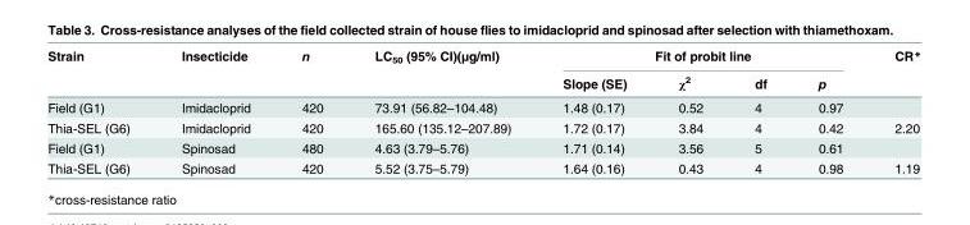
<table><thead><tr><td rowspan="2">Strain</td><td rowspan="2">Insecticide</td><td rowspan="2">n</td><td rowspan="2">LC<sub>50</sub> (95% CI)(μg/ml)</td><td colspan="4">Fit of probit line</td><td rowspan="2">CR*</td></tr><tr><td>Slope (SE)</td><td>χ<sup>2</sup></td><td>df</td><td>p</td></tr></thead><tbody><tr><td>Field (G1)</td><td>Imidacloprid</td><td>420</td><td>73.91 (56.82–104.48)</td><td>1.48 (0.17)</td><td>0.52</td><td>4</td><td>0.97</td><td></td></tr><tr><td>Thia-SEL (G6)</td><td>Imidacloprid</td><td>420</td><td>165.60 (135.12–207.89)</td><td>1.72 (0.17)</td><td>3.84</td><td>4</td><td>0.42</td><td>2.20</td></tr><tr><td>Field (G1)</td><td>Spinosad</td><td>480</td><td>4.63 (3.79–5.76)</td><td>1.71 (0.14)</td><td>3.56</td><td>5</td><td>0.61</td><td></td></tr><tr><td>Thia-SEL (G6)</td><td>Spinosad</td><td>420</td><td>5.52 (3.75–5.79)</td><td>1.64 (0.16)</td><td>0.43</td><td>4</td><td>0.98</td><td>1.19</td></tr></tbody></table>